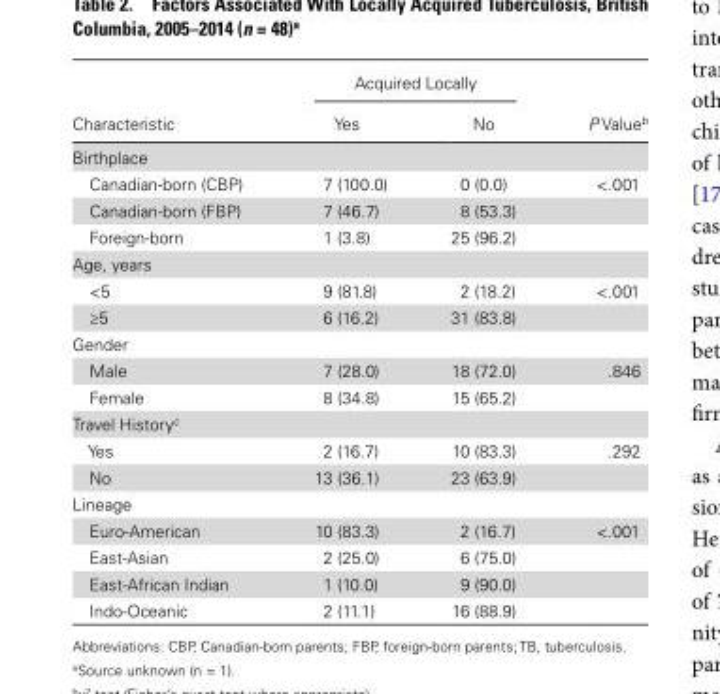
<table><thead><tr><td rowspan="2">Characteristic</td><td colspan="2">Acquired Locally</td><td rowspan="2">P Value<sup>b</sup></td></tr><tr><td>Yes</td><td>No</td></tr></thead><tbody><tr><td colspan="4">Birthplace</td></tr><tr><td>Canadian-born (CBP)</td><td>7 (100.0)</td><td>0 (0.0)</td><td>&lt;.001</td></tr><tr><td>Canadian-born (FBP)</td><td>7 (46.7)</td><td>8 (53.3)</td><td></td></tr><tr><td>Foreign-born</td><td>1 (3.8)</td><td>25 (96.2)</td><td></td></tr><tr><td colspan="4">Age, years</td></tr><tr><td>&lt;5</td><td>9 (81.8)</td><td>2 (18.2)</td><td>&lt;.001</td></tr><tr><td>≥5</td><td>6 (16.2)</td><td>31 (83.8)</td><td></td></tr><tr><td colspan="4">Gender</td></tr><tr><td>Male</td><td>7 (28.0)</td><td>18 (72.0)</td><td>.846</td></tr><tr><td>Female</td><td>8 (34.8)</td><td>15 (65.2)</td><td></td></tr><tr><td colspan="4">Travel History<sup>c</sup></td></tr><tr><td>Yes</td><td>2 (16.7)</td><td>10 (83.3)</td><td>.292</td></tr><tr><td>No</td><td>13 (36.1)</td><td>23 (63.9)</td><td></td></tr><tr><td colspan="4">Lineage</td></tr><tr><td>Euro-American</td><td>10 (83.3)</td><td>2 (16.7)</td><td>&lt;.001</td></tr><tr><td>East-Asian</td><td>2 (25.0)</td><td>6 (75.0)</td><td></td></tr><tr><td>East-African Indian</td><td>1 (10.0)</td><td>9 (90.0)</td><td></td></tr><tr><td>Indo-Oceanic</td><td>2 (11.1)</td><td>16 (88.9)</td><td></td></tr></tbody></table>